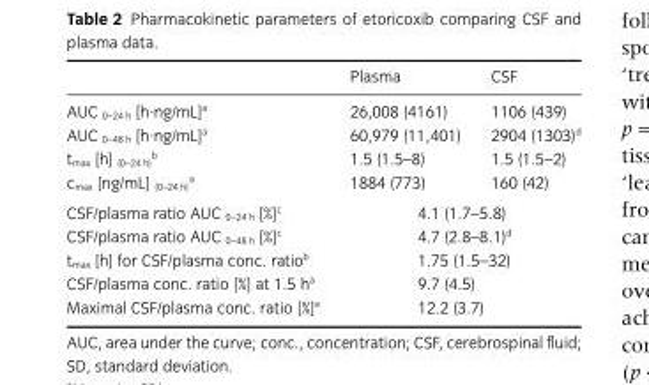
<table><thead><tr><td></td><td>Plasma</td><td>CSF</td></tr></thead><tbody><tr><td>AUC <sub>0–24 h</sub> [h·ng/mL]<sup>a</sup></td><td>26,008 (4161)</td><td>1106 (439)</td></tr><tr><td>AUC <sub>0–48 h</sub> [h·ng/mL]<sup>a</sup></td><td>60,979 (11,401)</td><td>2904 (1303)d</td></tr><tr><td>tmax [h] (0–24 h)b</td><td>1.5 (1.5–8)</td><td>1.5 (1.5–2)</td></tr><tr><td>c<sub>max</sub> [ng/mL] <sub>(0–24 h)</sub><sup>a</sup></td><td>1884 (773)</td><td>160 (42)</td></tr><tr><td>CSF/plasma ratio AUC 0–24 h [%]c</td><td colspan="2">4.1 (1.7–5.8)</td></tr><tr><td>CSF/plasma ratio AUC 0–48 h [%]c</td><td colspan="2">4.7 (2.8–8.1)d</td></tr><tr><td>tmax [h] for CSF/plasma conc. ratiob</td><td colspan="2">1.75 (1.5–32)</td></tr><tr><td>CSF/plasma conc. ratio [%] at 1.5 h<sup>a</sup></td><td colspan="2">9.7 (4.5)</td></tr><tr><td>Maximal CSF/plasma conc. ratio [%]e</td><td colspan="2">12.2 (3.7)</td></tr></tbody></table>